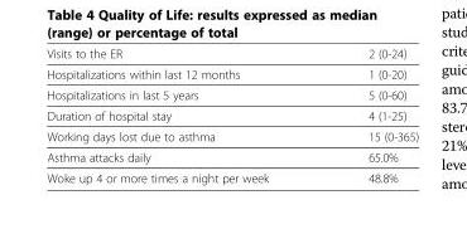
<table><tbody><tr><td>Visits to the ER</td><td>2 (0-24)</td></tr><tr><td>Hospitalizations within last 12 months</td><td>1 (0-20)</td></tr><tr><td>Hospitalizations in last 5 years</td><td>5 (0-60)</td></tr><tr><td>Duration of hospital stay</td><td>4 (1-25)</td></tr><tr><td>Working days lost due to asthma</td><td>15 (0-365)</td></tr><tr><td>Asthma attacks daily</td><td>65.0%</td></tr><tr><td>Woke up 4 or more times a night per week</td><td>48.8%</td></tr></tbody></table>